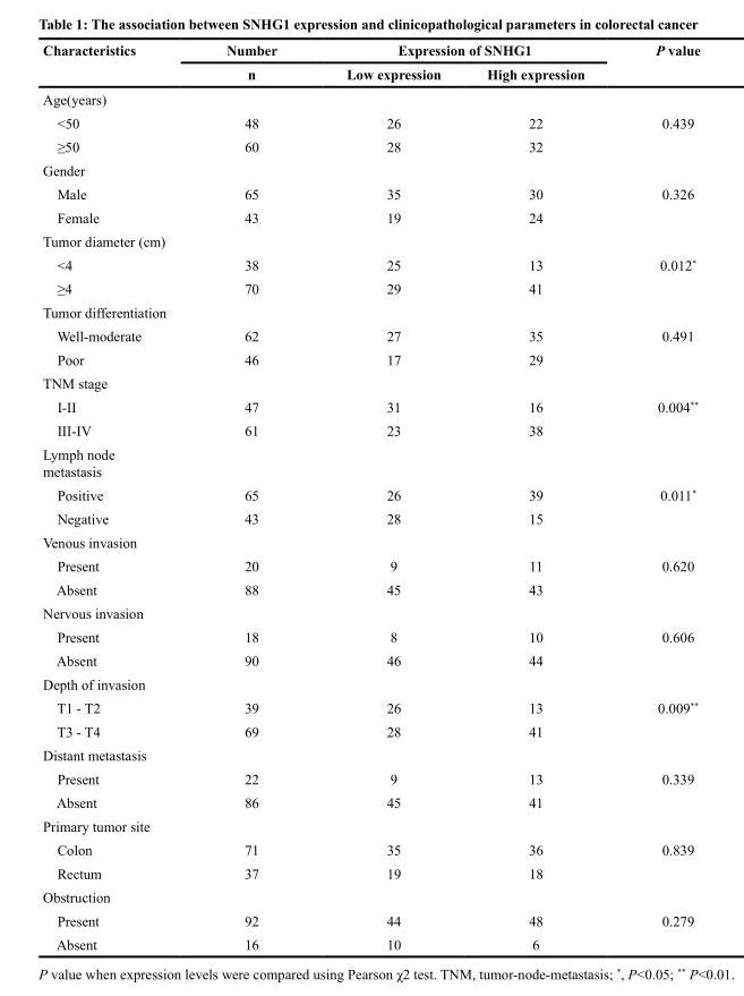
<table><thead><tr><td rowspan="2">Characteristics</td><td rowspan="2">Number n</td><td colspan="2">Expression of SNHG1</td><td rowspan="2">P value</td></tr><tr><td>Low expression</td><td>High expression</td></tr></thead><tbody><tr><td colspan="5">Age(years)</td></tr><tr><td>&lt;50</td><td>48</td><td>26</td><td>22</td><td>0.439</td></tr><tr><td>≥50</td><td>60</td><td>28</td><td>32</td><td></td></tr><tr><td colspan="5">Gender</td></tr><tr><td>Male</td><td>65</td><td>35</td><td>30</td><td>0.326</td></tr><tr><td>Female</td><td>43</td><td>19</td><td>24</td><td></td></tr><tr><td colspan="5">Tumor diameter (cm)</td></tr><tr><td>&lt;4</td><td>38</td><td>25</td><td>13</td><td>0.012*</td></tr><tr><td>≥4</td><td>70</td><td>29</td><td>41</td><td></td></tr><tr><td colspan="5">Tumor differentiation</td></tr><tr><td>Well-moderate</td><td>62</td><td>27</td><td>35</td><td>0.491</td></tr><tr><td>Poor</td><td>46</td><td>17</td><td>29</td><td></td></tr><tr><td colspan="5">TNM stage</td></tr><tr><td>I-II</td><td>47</td><td>31</td><td>16</td><td>0.004**</td></tr><tr><td>III-IV</td><td>61</td><td>23</td><td>38</td><td></td></tr><tr><td colspan="5">Lymph node metastasis</td></tr><tr><td>Positive</td><td>65</td><td>26</td><td>39</td><td>0.011*</td></tr><tr><td>Negative</td><td>43</td><td>28</td><td>15</td><td></td></tr><tr><td colspan="5">Venous invasion</td></tr><tr><td>Present</td><td>20</td><td>9</td><td>11</td><td>0.620</td></tr><tr><td>Absent</td><td>88</td><td>45</td><td>43</td><td></td></tr><tr><td colspan="5">Nervous invasion</td></tr><tr><td>Present</td><td>18</td><td>8</td><td>10</td><td>0.606</td></tr><tr><td>Absent</td><td>90</td><td>46</td><td>44</td><td></td></tr><tr><td colspan="5">Depth of invasion</td></tr><tr><td>T1 - T2</td><td>39</td><td>26</td><td>13</td><td>0.009**</td></tr><tr><td>T3 - T4</td><td>69</td><td>28</td><td>41</td><td></td></tr><tr><td colspan="5">Distant metastasis</td></tr><tr><td>Present</td><td>22</td><td>9</td><td>13</td><td>0.339</td></tr><tr><td>Absent</td><td>86</td><td>45</td><td>41</td><td></td></tr><tr><td colspan="5">Primary tumor site</td></tr><tr><td>Colon</td><td>71</td><td>35</td><td>36</td><td>0.839</td></tr><tr><td>Rectum</td><td>37</td><td>19</td><td>18</td><td></td></tr><tr><td colspan="5">Obstruction</td></tr><tr><td>Present</td><td>92</td><td>44</td><td>48</td><td>0.279</td></tr><tr><td>Absent</td><td>16</td><td>10</td><td>6</td><td></td></tr></tbody></table>